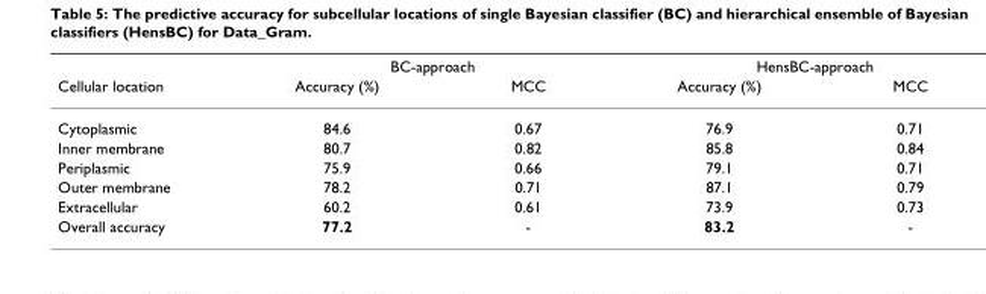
<table><thead><tr><td rowspan="2">Cellular location</td><td colspan="2">BC-approach</td><td colspan="2">HensBC-approach</td></tr><tr><td>Accuracy (%)</td><td>MCC</td><td>Accuracy (%)</td><td>MCC</td></tr></thead><tbody><tr><td>Cytoplasmic</td><td>84.6</td><td>0.67</td><td>76.9</td><td>0.71</td></tr><tr><td>Inner membrane</td><td>80.7</td><td>0.82</td><td>85.8</td><td>0.84</td></tr><tr><td>Periplasmic</td><td>75.9</td><td>0.66</td><td>79.1</td><td>0.71</td></tr><tr><td>Outer membrane</td><td>78.2</td><td>0.71</td><td>87.1</td><td>0.79</td></tr><tr><td>Extracellular</td><td>60.2</td><td>0.61</td><td>73.9</td><td>0.73</td></tr><tr><td>Overall accuracy</td><td>77.2</td><td>-</td><td>83.2</td><td>-</td></tr></tbody></table>